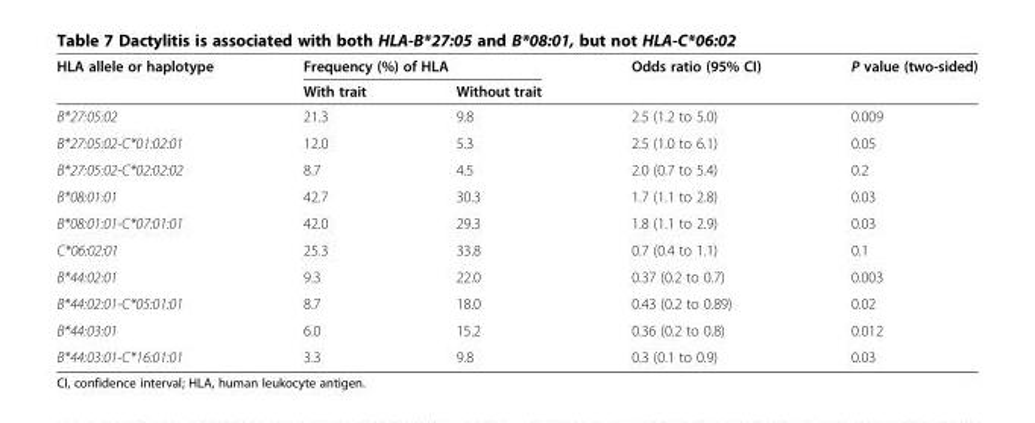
<table><thead><tr><td rowspan="2">HLA allele or haplotype</td><td colspan="2">Frequency (%) of HLA</td><td rowspan="2">Odds ratio (95% CI)</td><td rowspan="2">P value (two-sided)</td></tr><tr><td>With trait</td><td>Without trait</td></tr></thead><tbody><tr><td>B*27:05:02</td><td>21.3</td><td>9.8</td><td>2.5 (1.2 to 5.0)</td><td>0.009</td></tr><tr><td>B*27:05:02-C*01:02:01</td><td>12.0</td><td>5.3</td><td>2.5 (1.0 to 6.1)</td><td>0.05</td></tr><tr><td>B*27:05:02-C*02:02:02</td><td>8.7</td><td>4.5</td><td>2.0 (0.7 to 5.4)</td><td>0.2</td></tr><tr><td>B*08:01:01</td><td>42.7</td><td>30.3</td><td>1.7 (1.1 to 2.8)</td><td>0.03</td></tr><tr><td>B*08:01:01-C*07:01:01</td><td>42.0</td><td>29.3</td><td>1.8 (1.1 to 2.9)</td><td>0.03</td></tr><tr><td>C*06:02:01</td><td>25.3</td><td>33.8</td><td>0.7 (0.4 to 1.1)</td><td>0.1</td></tr><tr><td>B*44:02:01</td><td>9.3</td><td>22.0</td><td>0.37 (0.2 to 0.7)</td><td>0.003</td></tr><tr><td>B*44:02:01-C*05:01:01</td><td>8.7</td><td>18.0</td><td>0.43 (0.2 to 0.89)</td><td>0.02</td></tr><tr><td>B*44:03:01</td><td>6.0</td><td>15.2</td><td>0.36 (0.2 to 0.8)</td><td>0.012</td></tr><tr><td>B*44:03:01-C*16:01:01</td><td>3.3</td><td>9.8</td><td>0.3 (0.1 to 0.9)</td><td>0.03</td></tr></tbody></table>